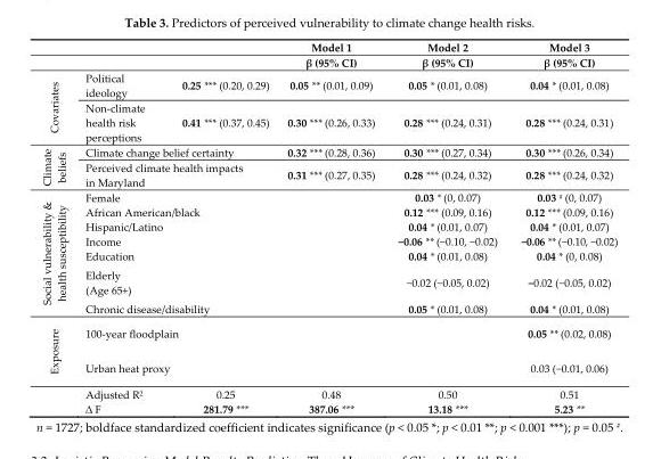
<table><thead><tr><td rowspan="2"></td><td rowspan="2"></td><td rowspan="2"></td><td rowspan="2">Model 1 β (95% CI)</td><td rowspan="2">Model 2 β (95% CI)</td><td rowspan="2">Model 3 β (95% CI)</td></tr><tr></tr></thead><tbody><tr><td rowspan="2">Covariates</td><td>Political ideology</td><td>0.25 *** (0.20, 0.29)</td><td>0.05 ** (0.01, 0.09)</td><td>0.05 * (0.01, 0.08)</td><td>0.04 * (0.01, 0.08)</td></tr><tr><td>Non-climate health risk perceptions</td><td>0.41 *** (0.37, 0.45)</td><td>0.30 *** (0.26, 0.33)</td><td>0.28 *** (0.24, 0.31)</td><td>0.28 *** (0.24, 0.31)</td></tr><tr><td rowspan="2">Climate beliefs</td><td colspan="2">Climate change belief certainty</td><td>0.32 *** (0.28, 0.36)</td><td>0.30 *** (0.27, 0.34)</td><td>0.30 *** (0.26, 0.34)</td></tr><tr><td colspan="2">Perceived climate health impacts in Maryland</td><td>0.31 *** (0.27, 0.35)</td><td>0.28 *** (0.24, 0.32)</td><td>0.28 *** (0.24, 0.32)</td></tr><tr><td rowspan="7">Social vulnerability &amp; health susceptibility</td><td>Female</td><td></td><td></td><td>0.03 * (0, 0.07)</td><td>0.03 <sup>#</sup> (0, 0.07)</td></tr><tr><td colspan="2">African American/black</td><td></td><td>0.12 *** (0.09, 0.16)</td><td>0.12 *** (0.09, 0.16)</td></tr><tr><td colspan="2">Hispanic/Latino</td><td></td><td>0.04 * (0.01, 0.07)</td><td>0.04 * (0.01, 0.07)</td></tr><tr><td>Income</td><td></td><td></td><td>−0.06 ** (−0.10, −0.02)</td><td>−0.06 ** (−0.10, −0.02)</td></tr><tr><td>Education</td><td></td><td></td><td>0.04 * (0.01, 0.08)</td><td>0.04 * (0, 0.08)</td></tr><tr><td>Elderly (Age 65+)</td><td></td><td></td><td>−0.02 (−0.05, 0.02)</td><td>−0.02 (−0.05, 0.02)</td></tr><tr><td colspan="3">Chronic disease/disability</td><td>0.05 * (0.01, 0.08)</td><td>0.04 * (0.01, 0.08)</td></tr><tr><td rowspan="4">Exposure</td><td colspan="2">100-year floodplain</td><td></td><td></td><td>0.05 ** (0.02, 0.08)</td></tr><tr><td colspan="2">Urban heat proxy</td><td></td><td></td><td>0.03 (−0.01, 0.06)</td></tr><tr><td>Adjusted R<sup>2</sup></td><td>0.25</td><td>0.48</td><td>0.50</td><td>0.51</td></tr><tr><td>∆ F</td><td>281.79 ***</td><td>387.06 ***</td><td>13.18 ***</td><td>5.23 **</td></tr></tbody></table>